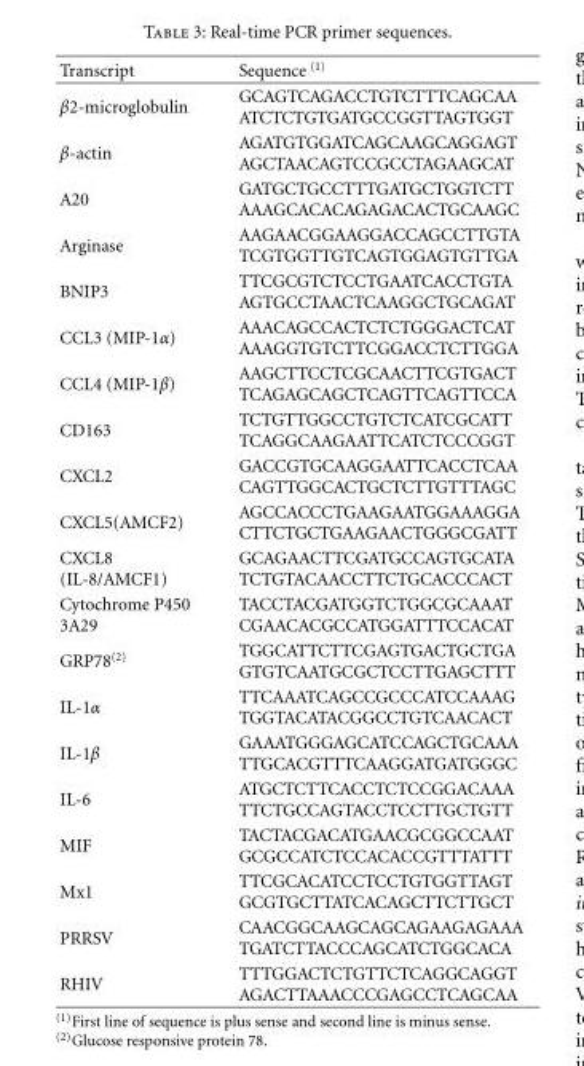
<table><thead><tr><td>Transcript</td><td>Sequence <sup>(1)</sup></td></tr></thead><tbody><tr><td>β2-microglobulin</td><td>GCAGTCAGACCTGTCTTTCAGCAA ATCTCTGTGATGCCGGTTAGTGGT</td></tr><tr><td>β-actin</td><td>AGATGTGGATCAGCAAGCAGGAGT AGCTAACAGTCCGCCTAGAAGCAT</td></tr><tr><td>A20</td><td>GATGCTGCCTTTGATGCTGGTCTT AAAGCACACAGAGACACTGCAAGC</td></tr><tr><td>Arginase</td><td>AAGAACGGAAGGACCAGCCTTGTA TCGTGGTTGTCAGTGGAGTGTTGA</td></tr><tr><td>BNIP3</td><td>TTCGCGTCTCCTGAATCACCTGTA AGTGCCTAACTCAAGGCTGCAGAT</td></tr><tr><td>CCL3 (MIP-1α)</td><td>AAACAGCCACTCTCTGGGACTCAT AAAGGTGTCTTCGGACCTCTTGGA</td></tr><tr><td>CCL4 (MIP-1β)</td><td>AAGCTTCCTCGCAACTTCGTGACT TCAGAGCAGCTCAGTTCAGTTCCA</td></tr><tr><td>CD163</td><td>TCTGTTGGCCTGTCTCATCGCATT TCAGGCAAGAATTCATCTCCCGGT</td></tr><tr><td>CXCL2</td><td>GACCGTGCAAGGAATTCACCTCAA CAGTTGGCACTGCTCTTGTTTAGC</td></tr><tr><td>CXCL5(AMCF2)</td><td>AGCCACCCTGAAGAATGGAAAGGA CTTCTGCTGAAGAACTGGGCGATT</td></tr><tr><td>CXCL8 (IL-8/AMCF1)</td><td>GCAGAACTTCGATGCCAGTGCATA TCTGTACAACCTTCTGCACCCACT</td></tr><tr><td>Cytochrome P450 3A29</td><td>TACCTACGATGGTCTGGCGCAAAT CGAACACGCCATGGATTTCCACAT</td></tr><tr><td>GRP78<sup>(2)</sup></td><td>TGGCATTCTTCGAGTGACTGCTGA GTGTCAATGCGCTCCTTGAGCTTT</td></tr><tr><td>IL-1α</td><td>TTCAAATCAGCCGCCCATCCAAAG TGGTACATACGGCCTGTCAACACT</td></tr><tr><td>IL-1β</td><td>GAAATGGGAGCATCCAGCTGCAAA TTGCACGTTTCAAGGATGATGGGC</td></tr><tr><td>IL-6</td><td>ATGCTCTTCACCTCTCCGGACAAA TTCTGCCAGTACCTCCTTGCTGTT</td></tr><tr><td>MIF</td><td>TACTACGACATGAACGCGGCCAAT GCGCCATCTCCACACCGTTTATTT</td></tr><tr><td>Mx1</td><td>TTCGCACATCCTCCTGTGGTTAGT GCGTGCTTATCACAGCTTCTTGCT</td></tr><tr><td>PRRSV</td><td>CAACGGCAAGCAGCAGAAGAGAAA TGATCTTACCCAGCATCTGGCACA</td></tr><tr><td>RHIV</td><td>TTTGGACTCTGTTCTCAGGCAGGT AGACTTAAACCCGAGCCTCAGCAA</td></tr></tbody></table>